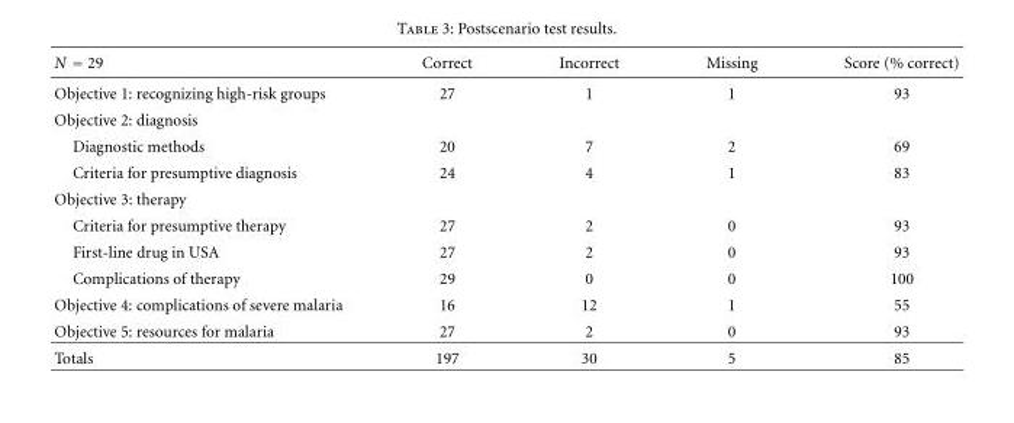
<table><thead><tr><td>N = 29</td><td>Correct</td><td>Incorrect</td><td>Missing</td><td>Score (% correct)</td></tr></thead><tbody><tr><td>Objective 1: recognizing high-risk groups</td><td>27</td><td>1</td><td>1</td><td>93</td></tr><tr><td colspan="5">Objective 2: diagnosis</td></tr><tr><td>Diagnostic methods</td><td>20</td><td>7</td><td>2</td><td>69</td></tr><tr><td>Criteria for presumptive diagnosis</td><td>24</td><td>4</td><td>1</td><td>83</td></tr><tr><td colspan="5">Objective 3: therapy</td></tr><tr><td>Criteria for presumptive therapy</td><td>27</td><td>2</td><td>0</td><td>93</td></tr><tr><td>First-line drug in USA</td><td>27</td><td>2</td><td>0</td><td>93</td></tr><tr><td>Complications of therapy</td><td>29</td><td>0</td><td>0</td><td>100</td></tr><tr><td>Objective 4: complications of severe malaria</td><td>16</td><td>12</td><td>1</td><td>55</td></tr><tr><td>Objective 5: resources for malaria</td><td>27</td><td>2</td><td>0</td><td>93</td></tr><tr><td>Totals</td><td>197</td><td>30</td><td>5</td><td>85</td></tr></tbody></table>